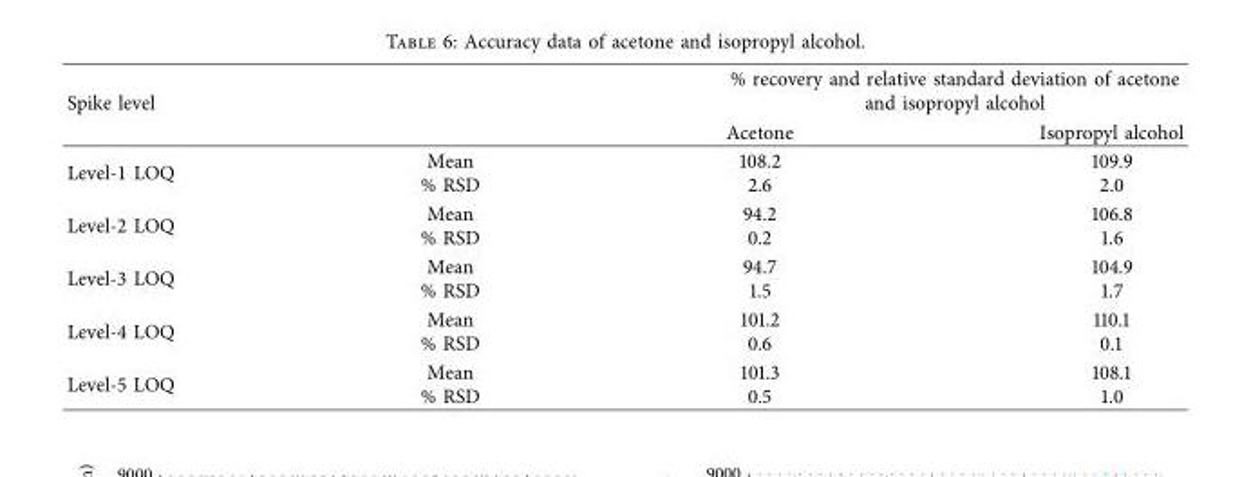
<table><thead><tr><td rowspan="2" colspan="2">Spike level</td><td colspan="2">% recovery and relative standard deviation of acetone and isopropyl alcohol</td></tr><tr><td rowspan="2">Acetone 108.2 2.6</td><td rowspan="2">Isopropyl alcohol 109.9 2.0</td></tr><tr><td>Level-1 LOQ</td><td>Mean % RSD</td></tr></thead><tbody><tr><td>Level-2 LOQ</td><td>Mean % RSD</td><td>94.2 0.2</td><td>106.8 1.6</td></tr><tr><td>Level-3 LOQ</td><td>Mean % RSD</td><td>94.7 1.5</td><td>104.9 1.7</td></tr><tr><td>Level-4 LOQ</td><td>Mean % RSD</td><td>101.2 0.6</td><td>110.1 0.1</td></tr><tr><td>Level-5 LOQ</td><td>Mean % RSD</td><td>101.3 0.5</td><td>108.1 1.0</td></tr></tbody></table>